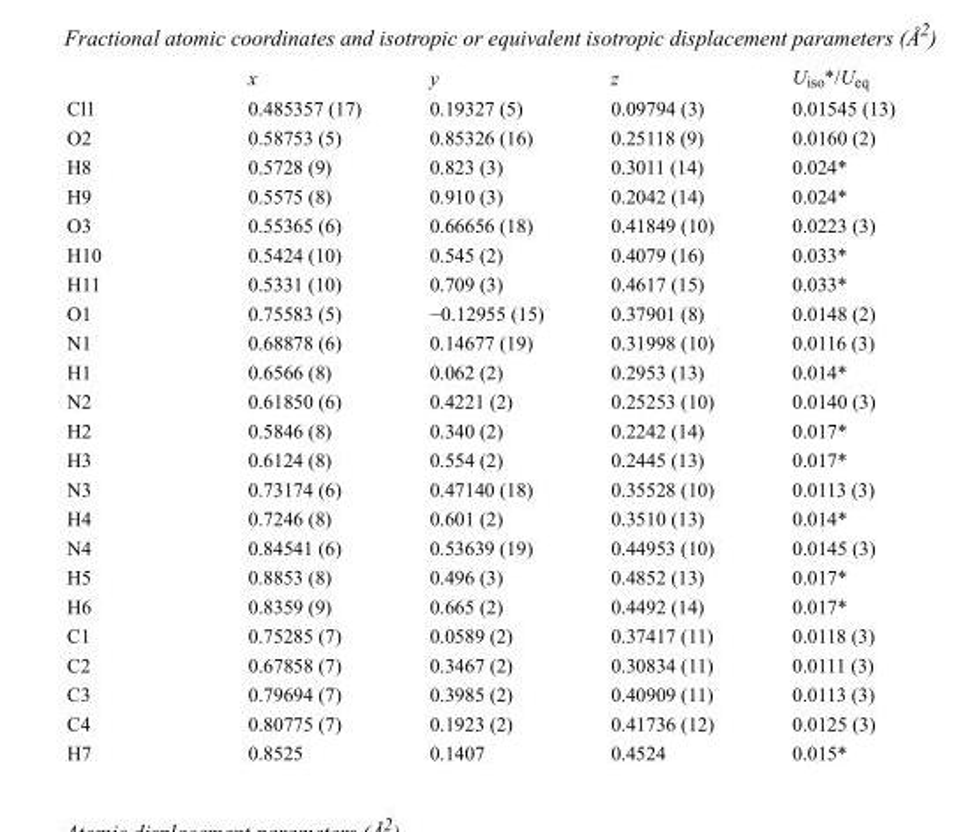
<table><thead><tr><td></td><td>x</td><td>y</td><td>z</td><td>U<sub>iso</sub>*/U<sub>eq</sub></td></tr></thead><tbody><tr><td>Cl1</td><td>0.485357 (17)</td><td>0.19327 (5)</td><td>0.09794 (3)</td><td>0.01545 (13)</td></tr><tr><td>O2</td><td>0.58753 (5)</td><td>0.85326 (16)</td><td>0.25118 (9)</td><td>0.0160 (2)</td></tr><tr><td>H8</td><td>0.5728 (9)</td><td>0.823 (3)</td><td>0.3011 (14)</td><td>0.024*</td></tr><tr><td>H9</td><td>0.5575 (8)</td><td>0.910 (3)</td><td>0.2042 (14)</td><td>0.024*</td></tr><tr><td>O3</td><td>0.55365 (6)</td><td>0.66656 (18)</td><td>0.41849 (10)</td><td>0.0223 (3)</td></tr><tr><td>H10</td><td>0.5424 (10)</td><td>0.545 (2)</td><td>0.4079 (16)</td><td>0.033*</td></tr><tr><td>H11</td><td>0.5331 (10)</td><td>0.709 (3)</td><td>0.4617 (15)</td><td>0.033*</td></tr><tr><td>O1</td><td>0.75583 (5)</td><td>−0.12955 (15)</td><td>0.37901 (8)</td><td>0.0148 (2)</td></tr><tr><td>N1</td><td>0.68878 (6)</td><td>0.14677 (19)</td><td>0.31998 (10)</td><td>0.0116 (3)</td></tr><tr><td>H1</td><td>0.6566 (8)</td><td>0.062 (2)</td><td>0.2953 (13)</td><td>0.014*</td></tr><tr><td>N2</td><td>0.61850 (6)</td><td>0.4221 (2)</td><td>0.25253 (10)</td><td>0.0140 (3)</td></tr><tr><td>H2</td><td>0.5846 (8)</td><td>0.340 (2)</td><td>0.2242 (14)</td><td>0.017*</td></tr><tr><td>H3</td><td>0.6124 (8)</td><td>0.554 (2)</td><td>0.2445 (13)</td><td>0.017*</td></tr><tr><td>N3</td><td>0.73174 (6)</td><td>0.47140 (18)</td><td>0.35528 (10)</td><td>0.0113 (3)</td></tr><tr><td>H4</td><td>0.7246 (8)</td><td>0.601 (2)</td><td>0.3510 (13)</td><td>0.014*</td></tr><tr><td>N4</td><td>0.84541 (6)</td><td>0.53639 (19)</td><td>0.44953 (10)</td><td>0.0145 (3)</td></tr><tr><td>H5</td><td>0.8853 (8)</td><td>0.496 (3)</td><td>0.4852 (13)</td><td>0.017*</td></tr><tr><td>H6</td><td>0.8359 (9)</td><td>0.665 (2)</td><td>0.4492 (14)</td><td>0.017*</td></tr><tr><td>C1</td><td>0.75285 (7)</td><td>0.0589 (2)</td><td>0.37417 (11)</td><td>0.0118 (3)</td></tr><tr><td>C2</td><td>0.67858 (7)</td><td>0.3467 (2)</td><td>0.30834 (11)</td><td>0.0111 (3)</td></tr><tr><td>C3</td><td>0.79694 (7)</td><td>0.3985 (2)</td><td>0.40909 (11)</td><td>0.0113 (3)</td></tr><tr><td>C4</td><td>0.80775 (7)</td><td>0.1923 (2)</td><td>0.41736 (12)</td><td>0.0125 (3)</td></tr><tr><td>H7</td><td>0.8525</td><td>0.1407</td><td>0.4524</td><td>0.015*</td></tr></tbody></table>